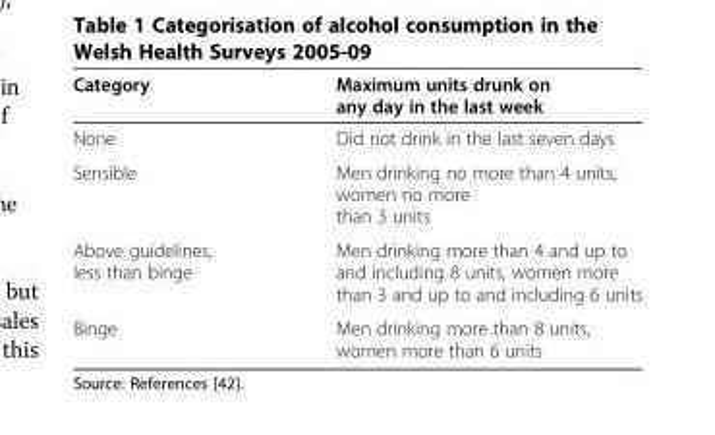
<table><thead><tr><td>Category</td><td>Maximum units drunk on any day in the last week</td></tr></thead><tbody><tr><td>None</td><td>Did not drink in the last seven days</td></tr><tr><td>Sensible</td><td>Men drinking no more than 4 units, women no more than 3 units</td></tr><tr><td>Above guidelines, less than binge</td><td>Men drinking more than 4 and up to and including 8 units, women more than 3 and up to and including 6 units</td></tr><tr><td>Binge</td><td>Men drinking more than 8 units, women more than 6 units</td></tr></tbody></table>